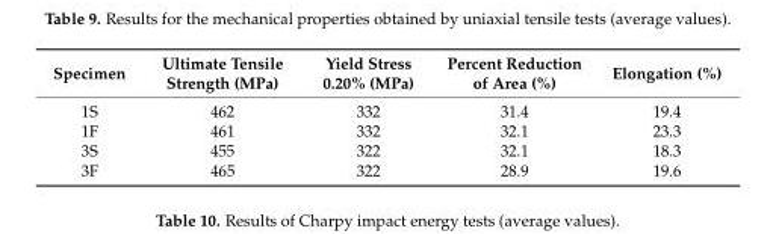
<table><thead><tr><td>Specimen</td><td>Ultimate Tensile Strength (MPa)</td><td>Yield Stress 0.20% (MPa)</td><td>Percent Reduction of Area (%)</td><td>Elongation (%)</td></tr></thead><tbody><tr><td>1S</td><td>462</td><td>332</td><td>31.4</td><td>19.4</td></tr><tr><td>1F</td><td>461</td><td>332</td><td>32.1</td><td>23.3</td></tr><tr><td>3S</td><td>455</td><td>322</td><td>32.1</td><td>18.3</td></tr><tr><td>3F</td><td>465</td><td>322</td><td>28.9</td><td>19.6</td></tr></tbody></table>